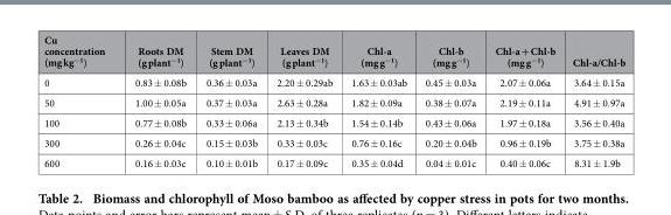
<table><thead><tr><td>concentration (mg kg−1)</td><td>Roots DM (g plant<sup>−1</sup>)</td><td>Stem DM (g plant<sup>−1</sup>)</td><td>Leaves DM (g plant<sup>−1</sup>)</td><td>Chl-a (mg g<sup>−1</sup>)</td><td>Chl-b (mg g<sup>−1</sup>)</td><td>Chl-a + Chl-b (mg g<sup>−1</sup>)</td><td>Chl-a/Chl-b</td></tr></thead><tbody><tr><td>0</td><td>0.83 ± 0.08b</td><td>0.36 ± 0.03a</td><td>2.20 ± 0.29ab</td><td>1.63 ± 0.03ab</td><td>0.45 ± 0.03a</td><td>2.07 ± 0.06a</td><td>3.64 ± 0.15a</td></tr><tr><td>50</td><td>1.00 ± 0.05a</td><td>0.37 ± 0.03a</td><td>2.63 ± 0.28a</td><td>1.82 ± 0.09a</td><td>0.38 ± 0.07a</td><td>2.19 ± 0.11a</td><td>4.91 ± 0.97a</td></tr><tr><td>100</td><td>0.77 ± 0.08b</td><td>0.33 ± 0.06a</td><td>2.13 ± 0.34b</td><td>1.54 ± 0.14b</td><td>0.43 ± 0.06a</td><td>1.97 ± 0.18a</td><td>3.56 ± 0.40a</td></tr><tr><td>300</td><td>0.26 ± 0.04c</td><td>0.15 ± 0.03b</td><td>0.33 ± 0.03c</td><td>0.76 ± 0.16c</td><td>0.20 ± 0.04b</td><td>0.96 ± 0.19b</td><td>3.75 ± 0.38a</td></tr><tr><td>600</td><td>0.16 ± 0.03c</td><td>0.10 ± 0.01b</td><td>0.17 ± 0.09c</td><td>0.35 ± 0.04d</td><td>0.04 ± 0.01c</td><td>0.40 ± 0.06c</td><td>8.31 ± 1.9b</td></tr></tbody></table>